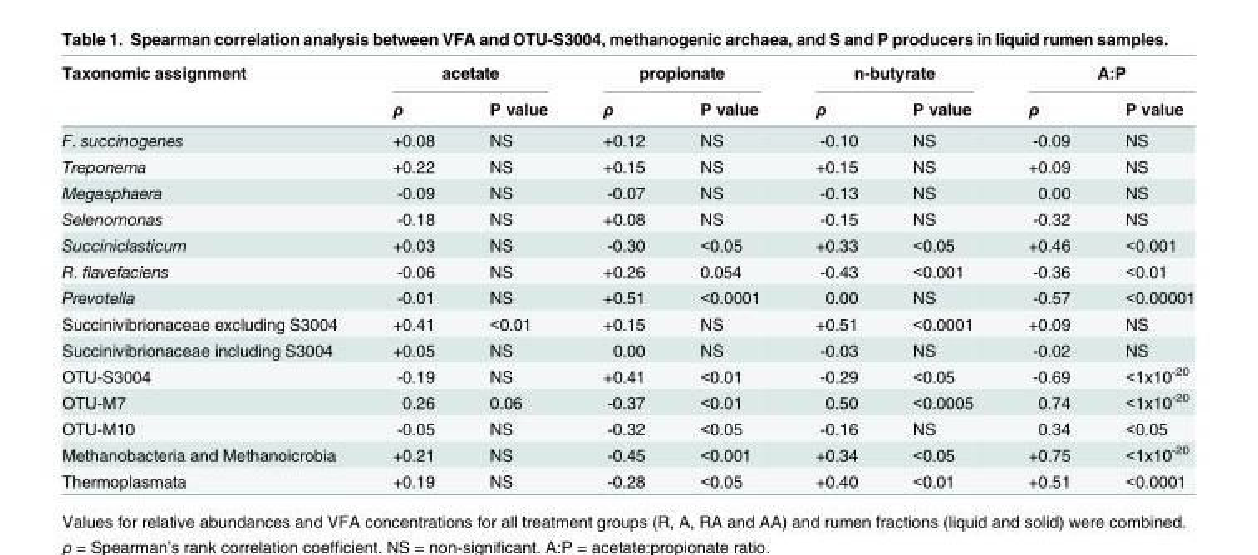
<table><thead><tr><td rowspan="2">Taxonomic assignment</td><td colspan="2">acetate</td><td colspan="2">propionate</td><td colspan="2">n-butyrate</td><td colspan="2">A:P</td></tr><tr><td>ρ</td><td>P value</td><td>ρ</td><td>P value</td><td>ρ</td><td>P value</td><td>ρ</td><td>P value</td></tr></thead><tbody><tr><td>F. succinogenes</td><td>+0.08</td><td>NS</td><td>+0.12</td><td>NS</td><td>-0.10</td><td>NS</td><td>-0.09</td><td>NS</td></tr><tr><td>Treponema</td><td>+0.22</td><td>NS</td><td>+0.15</td><td>NS</td><td>+0.15</td><td>NS</td><td>+0.09</td><td>NS</td></tr><tr><td>Megasphaera</td><td>-0.09</td><td>NS</td><td>-0.07</td><td>NS</td><td>-0.13</td><td>NS</td><td>0.00</td><td>NS</td></tr><tr><td>Selenomonas</td><td>-0.18</td><td>NS</td><td>+0.08</td><td>NS</td><td>-0.15</td><td>NS</td><td>-0.32</td><td>NS</td></tr><tr><td>Succiniclasticum</td><td>+0.03</td><td>NS</td><td>-0.30</td><td>&lt;0.05</td><td>+0.33</td><td>&lt;0.05</td><td>+0.46</td><td>&lt;0.001</td></tr><tr><td>R. flavefaciens</td><td>-0.06</td><td>NS</td><td>+0.26</td><td>0.054</td><td>-0.43</td><td>&lt;0.001</td><td>-0.36</td><td>&lt;0.01</td></tr><tr><td>Prevotella</td><td>-0.01</td><td>NS</td><td>+0.51</td><td>&lt;0.0001</td><td>0.00</td><td>NS</td><td>-0.57</td><td>&lt;0.00001</td></tr><tr><td>Succinivibrionaceae excluding S3004</td><td>+0.41</td><td>&lt;0.01</td><td>+0.15</td><td>NS</td><td>+0.51</td><td>&lt;0.0001</td><td>+0.09</td><td>NS</td></tr><tr><td>Succinivibrionaceae including S3004</td><td>+0.05</td><td>NS</td><td>0.00</td><td>NS</td><td>-0.03</td><td>NS</td><td>-0.02</td><td>NS</td></tr><tr><td>OTU-S3004</td><td>-0.19</td><td>NS</td><td>+0.41</td><td>&lt;0.01</td><td>-0.29</td><td>&lt;0.05</td><td>-0.69</td><td>&lt;1x10<sup>-20</sup></td></tr><tr><td>OTU-M7</td><td>0.26</td><td>0.06</td><td>-0.37</td><td>&lt;0.01</td><td>0.50</td><td>&lt;0.0005</td><td>0.74</td><td>&lt;1x10<sup>-20</sup></td></tr><tr><td>OTU-M10</td><td>-0.05</td><td>NS</td><td>-0.32</td><td>&lt;0.05</td><td>-0.16</td><td>NS</td><td>0.34</td><td>&lt;0.05</td></tr><tr><td>Methanobacteria and Methanoicrobia</td><td>+0.21</td><td>NS</td><td>-0.45</td><td>&lt;0.001</td><td>+0.34</td><td>&lt;0.05</td><td>+0.75</td><td>&lt;1x10<sup>-20</sup></td></tr><tr><td>Thermoplasmata</td><td>+0.19</td><td>NS</td><td>-0.28</td><td>&lt;0.05</td><td>+0.40</td><td>&lt;0.01</td><td>+0.51</td><td>&lt;0.0001</td></tr></tbody></table>